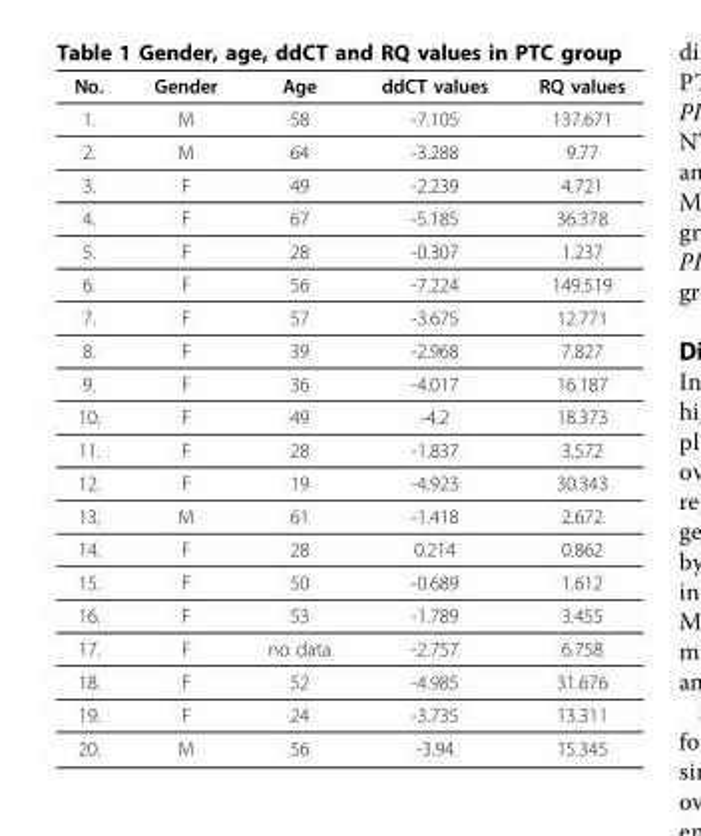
<table><thead><tr><td>No.</td><td>Gender</td><td>Age</td><td>ddCT values</td><td>RQ values</td></tr></thead><tbody><tr><td>1.</td><td>M</td><td>58</td><td>-7.105</td><td>137.671</td></tr><tr><td>2.</td><td>M</td><td>64</td><td>-3.288</td><td>9.77</td></tr><tr><td>3.</td><td>F</td><td>49</td><td>-2.239</td><td>4.721</td></tr><tr><td>4.</td><td>F</td><td>67</td><td>-5.185</td><td>36.378</td></tr><tr><td>5.</td><td>F</td><td>28</td><td>-0.307</td><td>1.237</td></tr><tr><td>6.</td><td>F</td><td>56</td><td>-7.224</td><td>149.519</td></tr><tr><td>7.</td><td>F</td><td>57</td><td>-3.675</td><td>12.771</td></tr><tr><td>8.</td><td>F</td><td>39</td><td>-2.968</td><td>7.827</td></tr><tr><td>9.</td><td>F</td><td>36</td><td>-4.017</td><td>16.187</td></tr><tr><td>10.</td><td>F</td><td>49</td><td>-4.2</td><td>18.373</td></tr><tr><td>11.</td><td>F</td><td>28</td><td>-1.837</td><td>3.572</td></tr><tr><td>12.</td><td>F</td><td>19</td><td>-4.923</td><td>30.343</td></tr><tr><td>13.</td><td>M</td><td>61</td><td>-1.418</td><td>2.672</td></tr><tr><td>14.</td><td>F</td><td>28</td><td>0.214</td><td>0.862</td></tr><tr><td>15.</td><td>F</td><td>50</td><td>-0.689</td><td>1.612</td></tr><tr><td>16.</td><td>F</td><td>53</td><td>-1.789</td><td>3.455</td></tr><tr><td>17.</td><td>F</td><td>no data</td><td>-2.757</td><td>6.758</td></tr><tr><td>18.</td><td>F</td><td>52</td><td>-4.985</td><td>31.676</td></tr><tr><td>19.</td><td>F</td><td>24</td><td>-3.735</td><td>13.311</td></tr><tr><td>20.</td><td>M</td><td>56</td><td>-3.94</td><td>15.345</td></tr></tbody></table>